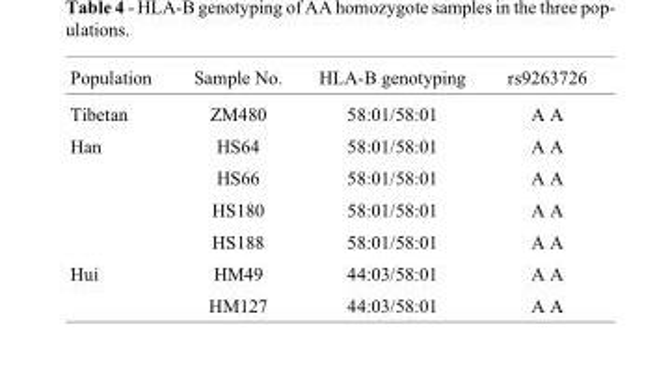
<table><thead><tr><td>Population</td><td>Sample No.</td><td>HLA-B genotyping</td><td>rs9263726</td></tr></thead><tbody><tr><td>Tibetan</td><td>ZM480</td><td>58:01/58:01</td><td>A A</td></tr><tr><td rowspan="4">Han</td><td>HS64</td><td>58:01/58:01</td><td>A A</td></tr><tr><td>HS66</td><td>58:01/58:01</td><td>A A</td></tr><tr><td>HS180</td><td>58:01/58:01</td><td>A A</td></tr><tr><td>HS188</td><td>58:01/58:01</td><td>A A</td></tr><tr><td rowspan="2">Hui</td><td>HM49</td><td>44:03/58:01</td><td>A A</td></tr><tr><td>HM127</td><td>44:03/58:01</td><td>A A</td></tr></tbody></table>